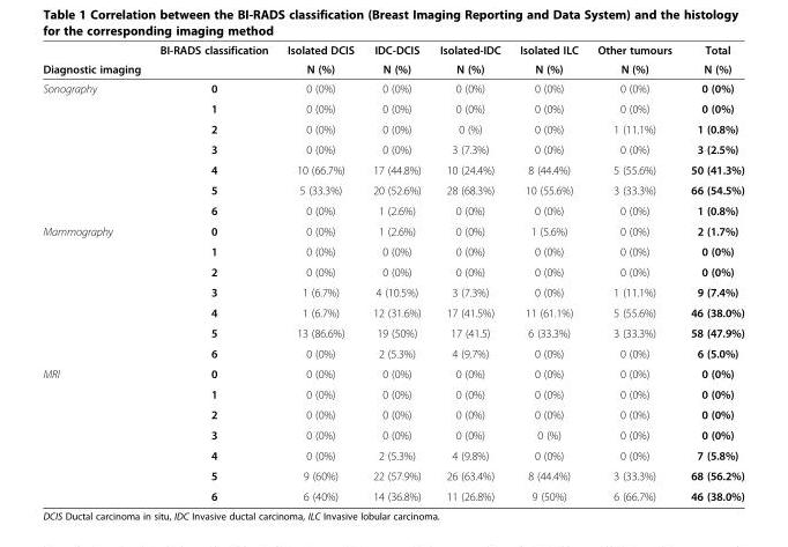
<table><thead><tr><td rowspan="2">Diagnostic imaging</td><td rowspan="2">BI-RADS classification</td><td rowspan="2">Isolated DCIS N (%)</td><td rowspan="2">IDC-DCIS N (%)</td><td rowspan="2">Isolated-IDC N (%)</td><td rowspan="2">Isolated ILC N (%)</td><td rowspan="2">Other tumours N (%)</td><td rowspan="2">Total N (%)</td></tr><tr></tr></thead><tbody><tr><td rowspan="7">Sonography</td><td>0</td><td>0 (0%)</td><td>0 (0%)</td><td>0 (0%)</td><td>0 (0%)</td><td>0 (0%)</td><td>0 (0%)</td></tr><tr><td>1</td><td>0 (0%)</td><td>0 (0%)</td><td>0 (0%)</td><td>0 (0%)</td><td>0 (0%)</td><td>0 (0%)</td></tr><tr><td>2</td><td>0 (0%)</td><td>0 (0%)</td><td>0 (%)</td><td>0 (0%)</td><td>1 (11.1%)</td><td>1 (0.8%)</td></tr><tr><td>3</td><td>0 (0%)</td><td>0 (0%)</td><td>3 (7.3%)</td><td>0 (0%)</td><td>0 (0%)</td><td>3 (2.5%)</td></tr><tr><td>4</td><td>10 (66.7%)</td><td>17 (44.8%)</td><td>10 (24.4%)</td><td>8 (44.4%)</td><td>5 (55.6%)</td><td>50 (41.3%)</td></tr><tr><td>5</td><td>5 (33.3%)</td><td>20 (52.6%)</td><td>28 (68.3%)</td><td>10 (55.6%)</td><td>3 (33.3%)</td><td>66 (54.5%)</td></tr><tr><td>6</td><td>0 (0%)</td><td>1 (2.6%)</td><td>0 (0%)</td><td>0 (0%)</td><td>0 (0%)</td><td>1 (0.8%)</td></tr><tr><td rowspan="7">Mammography</td><td>0</td><td>0 (0%)</td><td>1 (2.6%)</td><td>0 (0%)</td><td>1 (5.6%)</td><td>0 (0%)</td><td>2 (1.7%)</td></tr><tr><td>1</td><td>0 (0%)</td><td>0 (0%)</td><td>0 (0%)</td><td>0 (0%)</td><td>0 (0%)</td><td>0 (0%)</td></tr><tr><td>2</td><td>0 (0%)</td><td>0 (0%)</td><td>0 (0%)</td><td>0 (0%)</td><td>0 (0%)</td><td>0 (0%)</td></tr><tr><td>3</td><td>1 (6.7%)</td><td>4 (10.5%)</td><td>3 (7.3%)</td><td>0 (0%)</td><td>1 (11.1%)</td><td>9 (7.4%)</td></tr><tr><td>4</td><td>1 (6.7%)</td><td>12 (31.6%)</td><td>17 (41.5%)</td><td>11 (61.1%)</td><td>5 (55.6%)</td><td>46 (38.0%)</td></tr><tr><td>5</td><td>13 (86.6%)</td><td>19 (50%)</td><td>17 (41.5)</td><td>6 (33.3%)</td><td>3 (33.3%)</td><td>58 (47.9%)</td></tr><tr><td>6</td><td>0 (0%)</td><td>2 (5.3%)</td><td>4 (9.7%)</td><td>0 (0%)</td><td>0 (0%)</td><td>6 (5.0%)</td></tr><tr><td rowspan="7">MRI</td><td>0</td><td>0 (0%)</td><td>0 (0%)</td><td>0 (0%)</td><td>0 (0%)</td><td>0 (0%)</td><td>0 (0%)</td></tr><tr><td>1</td><td>0 (0%)</td><td>0 (0%)</td><td>0 (0%)</td><td>0 (0%)</td><td>0 (0%)</td><td>0 (0%)</td></tr><tr><td>2</td><td>0 (0%)</td><td>0 (0%)</td><td>0 (0%)</td><td>0 (0%)</td><td>0 (0%)</td><td>0 (0%)</td></tr><tr><td>3</td><td>0 (0%)</td><td>0 (0%)</td><td>0 (0%)</td><td>0 (%)</td><td>0 (0%)</td><td>0 (0%)</td></tr><tr><td>4</td><td>0 (0%)</td><td>2 (5.3%)</td><td>4 (9.8%)</td><td>0 (0%)</td><td>0 (0%)</td><td>7 (5.8%)</td></tr><tr><td>5</td><td>9 (60%)</td><td>22 (57.9%)</td><td>26 (63.4%)</td><td>8 (44.4%)</td><td>3 (33.3%)</td><td>68 (56.2%)</td></tr><tr><td>6</td><td>6 (40%)</td><td>14 (36.8%)</td><td>11 (26.8%)</td><td>9 (50%)</td><td>6 (66.7%)</td><td>46 (38.0%)</td></tr></tbody></table>